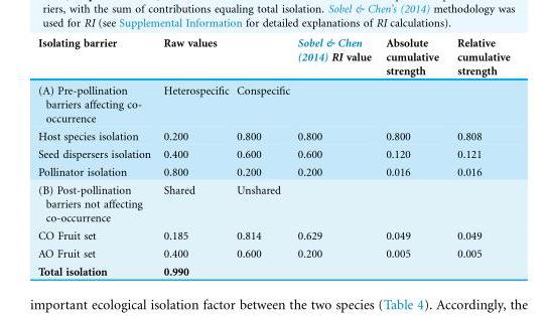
<table><thead><tr><td rowspan="2">Isolating barrier (A) Pre-pollination barriers affecting co- occurrence</td><td colspan="2">Raw values</td><td rowspan="2">Sobel &amp; Chen (2014) RI value</td><td rowspan="2">Absolute cumulative strength</td><td rowspan="2">Relative cumulative strength</td></tr><tr><td>Heterospecific</td><td>Conspecific</td></tr></thead><tbody><tr><td>Host species isolation</td><td>0.200</td><td>0.800</td><td>0.800</td><td>0.800</td><td>0.808</td></tr><tr><td>Seed dispersers isolation</td><td>0.400</td><td>0.600</td><td>0.600</td><td>0.120</td><td>0.121</td></tr><tr><td>Pollinator isolation</td><td>0.800</td><td>0.200</td><td>0.200</td><td>0.016</td><td>0.016</td></tr><tr><td>(B) Post-pollination barriers not affecting co-occurrence</td><td>Shared</td><td>Unshared</td><td></td><td></td><td></td></tr><tr><td>CO Fruit set</td><td>0.185</td><td>0.814</td><td>0.629</td><td>0.049</td><td>0.049</td></tr><tr><td>AO Fruit set</td><td>0.400</td><td>0.600</td><td>0.200</td><td>0.005</td><td>0.005</td></tr><tr><td>Total isolation</td><td colspan="2">0.990</td><td></td><td></td><td></td></tr></tbody></table>